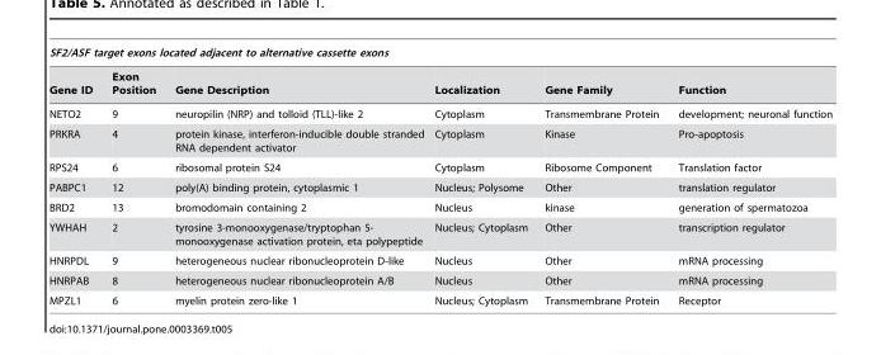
<table><thead><tr><td colspan="6">SF2/ASF target exons located adjacent to alternative cassette exons</td></tr><tr><td>Gene ID</td><td>Exon Position</td><td>Gene Description</td><td>Localization</td><td>Gene Family</td><td>Function</td></tr></thead><tbody><tr><td>NETO2</td><td>9</td><td>neuropilin (NRP) and tolloid (TLL)-like 2</td><td>Cytoplasm</td><td>Transmembrane Protein</td><td>development; neuronal function</td></tr><tr><td>PRKRA</td><td>4</td><td>protein kinase, interferon-inducible double stranded RNA dependent activator</td><td>Cytoplasm</td><td>Kinase</td><td>Pro-apoptosis</td></tr><tr><td>RPS24</td><td>6</td><td>ribosomal protein S24</td><td>Cytoplasm</td><td>Ribosome Component</td><td>Translation factor</td></tr><tr><td>PABPC1</td><td>12</td><td>poly(A) binding protein, cytoplasmic 1</td><td>Nucleus; Polysome</td><td>Other</td><td>translation regulator</td></tr><tr><td>BRD2</td><td>13</td><td>bromodomain containing 2</td><td>Nucleus</td><td>kinase</td><td>generation of spermatozoa</td></tr><tr><td>YWHAH</td><td>2</td><td>tyrosine 3-monooxygenase/tryptophan 5- monooxygenase activation protein, eta polypeptide</td><td>Nucleus; Cytoplasm</td><td>Other</td><td>transcription regulator</td></tr><tr><td>HNRPDL</td><td>9</td><td>heterogeneous nuclear ribonucleoprotein D-like</td><td>Nucleus</td><td>Other</td><td>mRNA processing</td></tr><tr><td>HNRPAB</td><td>8</td><td>heterogeneous nuclear ribonucleoprotein A/B</td><td>Nucleus</td><td>Other</td><td>mRNA processing</td></tr><tr><td>MPZL1</td><td>6</td><td>myelin protein zero-like 1</td><td>Nucleus; Cytoplasm</td><td>Transmembrane Protein</td><td>Receptor</td></tr></tbody></table>